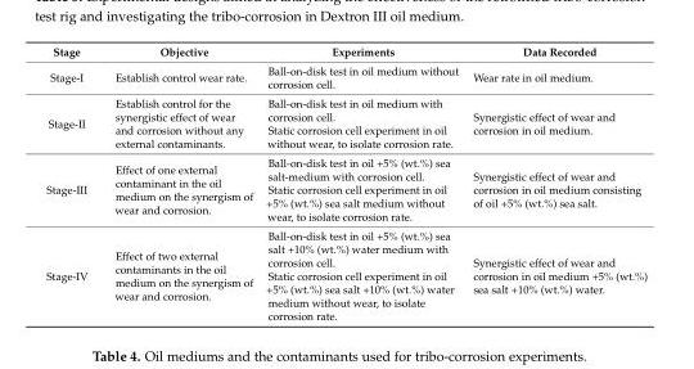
<table><thead><tr><td>Stage</td><td>Objective</td><td>Experiments</td><td>Data Recorded</td></tr></thead><tbody><tr><td>Stage-I</td><td>Establish control wear rate.</td><td>Ball-on-disk test in oil medium without corrosion cell.</td><td>Wear rate in oil medium.</td></tr><tr><td>Stage-II</td><td>Establish control for the synergistic effect of wear and corrosion without any external contaminants.</td><td>Ball-on-disk test in oil medium with corrosion cell. Static corrosion cell experiment in oil without wear, to isolate corrosion rate.</td><td>Synergistic effect of wear and corrosion in oil medium.</td></tr><tr><td>Stage-III</td><td>Effect of one external contaminant in the oil medium on the synergism of wear and corrosion.</td><td>Ball-on-disk test in oil +5% (wt.%) sea salt-medium with corrosion cell. Static corrosion cell experiment in oil +5% (wt.%) sea salt medium without wear, to isolate corrosion rate.</td><td>Synergistic effect of wear and corrosion in oil medium consisting of oil +5% (wt.%) sea salt.</td></tr><tr><td>Stage-IV</td><td>Effect of two external contaminants in the oil medium on the synergism of wear and corrosion.</td><td>Ball-on-disk test in oil +5% (wt.%) sea salt +10% (wt.%) water medium with corrosion cell. Static corrosion cell experiment in oil +5% (wt.%) sea salt +10% (wt.%) water medium without wear, to isolate corrosion rate.</td><td>Synergistic effect of wear and corrosion in oil medium +5% (wt.%) sea salt +10% (wt.%) water.</td></tr></tbody></table>